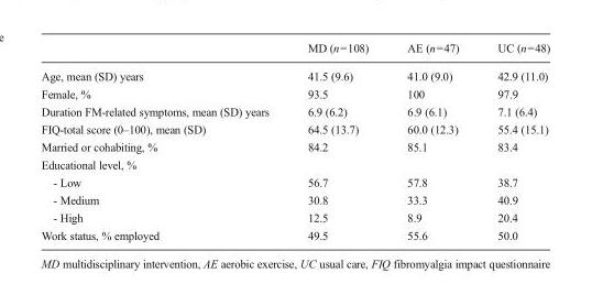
<table><thead><tr><td></td><td>MD (n=108)</td><td>AE (n=47)</td><td>UC (n=48)</td></tr></thead><tbody><tr><td>Age, mean (SD) years</td><td>41.5 (9.6)</td><td>41.0 (9.0)</td><td>42.9 (11.0)</td></tr><tr><td>Female, %</td><td>93.5</td><td>100</td><td>97.9</td></tr><tr><td>Duration FM-related symptoms, mean (SD) years</td><td>6.9 (6.2)</td><td>6.9 (6.1)</td><td>7.1 (6.4)</td></tr><tr><td>FIQ-total score (0–100), mean (SD)</td><td>64.5 (13.7)</td><td>60.0 (12.3)</td><td>55.4 (15.1)</td></tr><tr><td>Married or cohabiting, %</td><td>84.2</td><td>85.1</td><td>83.4</td></tr><tr><td colspan="4">Educational level, %</td></tr><tr><td>- Low</td><td>56.7</td><td>57.8</td><td>38.7</td></tr><tr><td>- Medium</td><td>30.8</td><td>33.3</td><td>40.9</td></tr><tr><td>- High</td><td>12.5</td><td>8.9</td><td>20.4</td></tr><tr><td>Work status, % employed</td><td>49.5</td><td>55.6</td><td>50.0</td></tr></tbody></table>